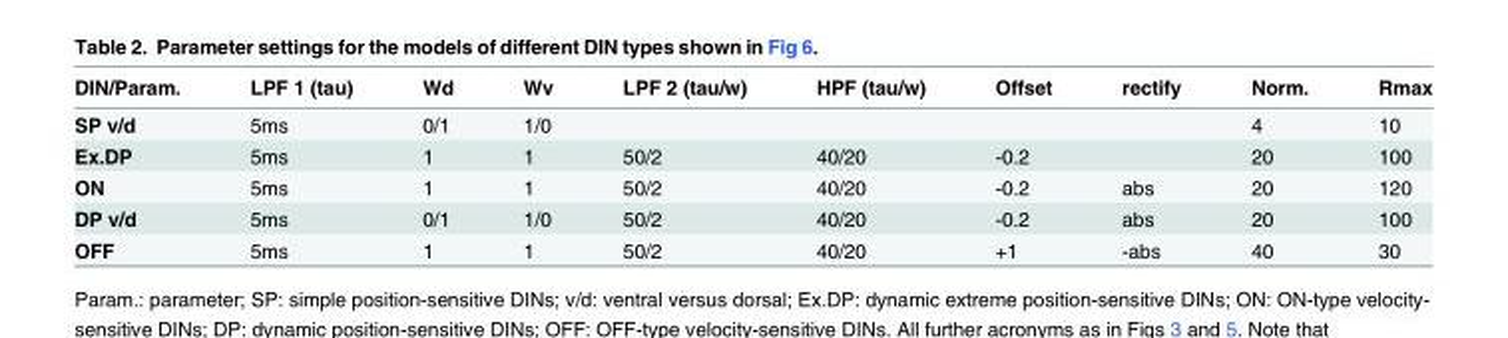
<table><thead><tr><td>DIN/Param.</td><td>LPF 1 (tau)</td><td>Wd</td><td>Wv</td><td>LPF 2 (tau/w)</td><td>HPF (tau/w)</td><td>Offset</td><td>rectify</td><td>Norm.</td><td>Rmax</td></tr></thead><tbody><tr><td>SP v/d</td><td>5ms</td><td>0/1</td><td>1/0</td><td></td><td></td><td></td><td></td><td>4</td><td>10</td></tr><tr><td>Ex.DP</td><td>5ms</td><td>1</td><td>1</td><td>50/2</td><td>40/20</td><td>-0.2</td><td></td><td>20</td><td>100</td></tr><tr><td>ON</td><td>5ms</td><td>1</td><td>1</td><td>50/2</td><td>40/20</td><td>-0.2</td><td>abs</td><td>20</td><td>120</td></tr><tr><td>DP v/d</td><td>5ms</td><td>0/1</td><td>1/0</td><td>50/2</td><td>40/20</td><td>-0.2</td><td>abs</td><td>20</td><td>100</td></tr><tr><td>OFF</td><td>5ms</td><td>1</td><td>1</td><td>50/2</td><td>40/20</td><td>+1</td><td>-abs</td><td>40</td><td>30</td></tr></tbody></table>